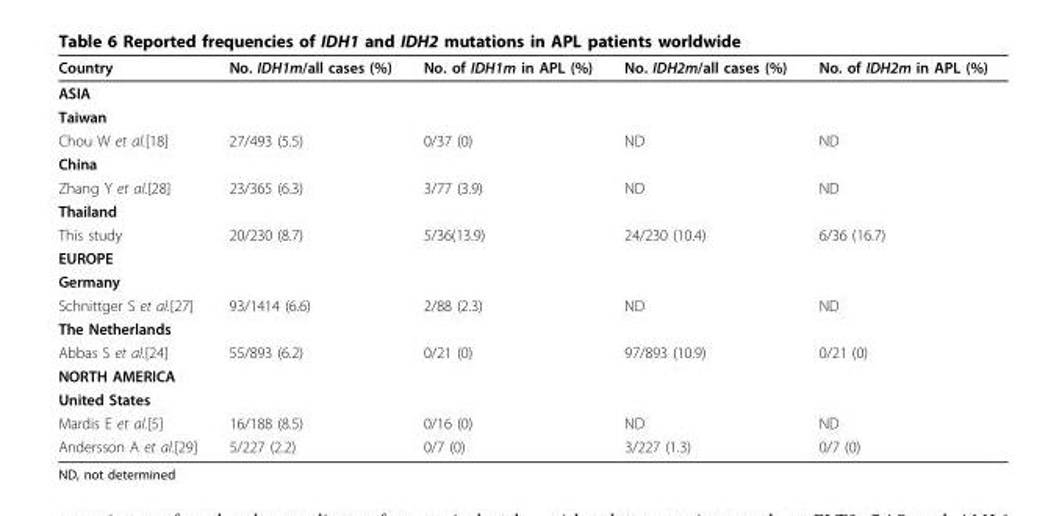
<table><thead><tr><td>Country</td><td>No. IDH1m/all cases (%)</td><td>No. of IDH1m in APL (%)</td><td>No. IDH2m/all cases (%)</td><td>No. of IDH2m in APL (%)</td></tr></thead><tbody><tr><td colspan="5">ASIA</td></tr><tr><td colspan="5">Taiwan</td></tr><tr><td>Chou W et al.[18]</td><td>27/493 (5.5)</td><td>0/37 (0)</td><td>ND</td><td>ND</td></tr><tr><td colspan="5">China</td></tr><tr><td>Zhang Y et al.[28]</td><td>23/365 (6.3)</td><td>3/77 (3.9)</td><td>ND</td><td>ND</td></tr><tr><td colspan="5">Thailand</td></tr><tr><td>This study</td><td>20/230 (8.7)</td><td>5/36(13.9)</td><td>24/230 (10.4)</td><td>6/36 (16.7)</td></tr><tr><td colspan="5">EUROPE</td></tr><tr><td colspan="5">Germany</td></tr><tr><td>Schnittger S et al.[27]</td><td>93/1414 (6.6)</td><td>2/88 (2.3)</td><td>ND</td><td>ND</td></tr><tr><td colspan="5">The Netherlands</td></tr><tr><td>Abbas S et al.[24]</td><td>55/893 (6.2)</td><td>0/21 (0)</td><td>97/893 (10.9)</td><td>0/21 (0)</td></tr><tr><td colspan="5">NORTH AMERICA</td></tr><tr><td colspan="5">United States</td></tr><tr><td>Mardis E et al.[5]</td><td>16/188 (8.5)</td><td>0/16 (0)</td><td>ND</td><td>ND</td></tr><tr><td>Andersson A et al.[29]</td><td>5/227 (2.2)</td><td>0/7 (0)</td><td>3/227 (1.3)</td><td>0/7 (0)</td></tr></tbody></table>